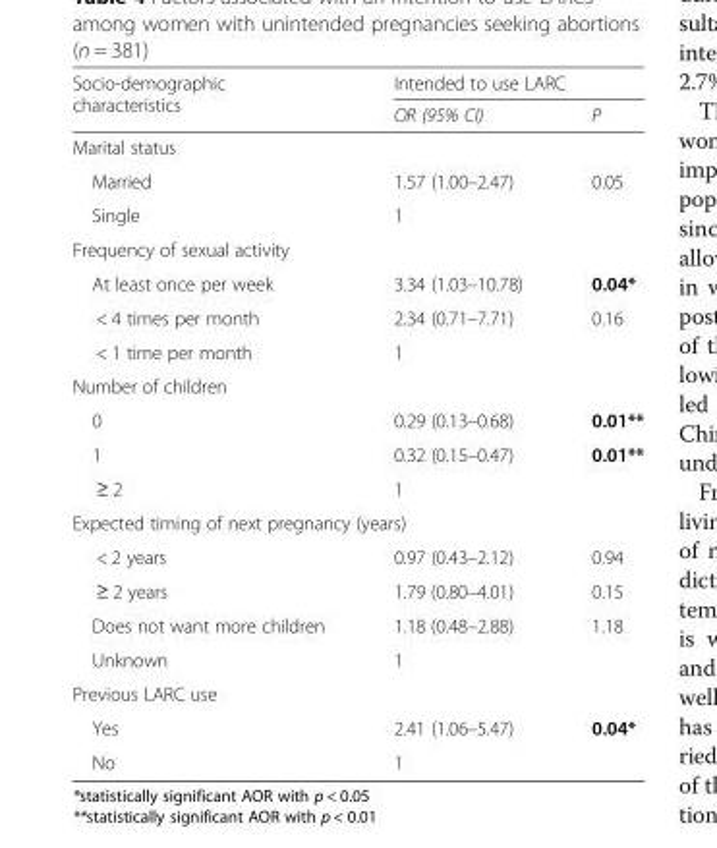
<table><thead><tr><td rowspan="2">Socio-demographic characteristics</td><td colspan="2">Intended to use LARC</td></tr><tr><td>OR (95% CI)</td><td>P</td></tr></thead><tbody><tr><td colspan="3">Marital status</td></tr><tr><td>Married</td><td>1.57 (1.00–2.47)</td><td>0.05</td></tr><tr><td>Single</td><td>1</td><td></td></tr><tr><td colspan="3">Frequency of sexual activity</td></tr><tr><td>At least once per week</td><td>3.34 (1.03–10.78)</td><td>0.04*</td></tr><tr><td>&lt; 4 times per month</td><td>2.34 (0.71–7.71)</td><td>0.16</td></tr><tr><td>&lt; 1 time per month</td><td>1</td><td></td></tr><tr><td colspan="3">Number of children</td></tr><tr><td>0</td><td>0.29 (0.13–0.68)</td><td>0.01**</td></tr><tr><td>1</td><td>0.32 (0.15–0.47)</td><td>0.01**</td></tr><tr><td>≥ 2</td><td>1</td><td></td></tr><tr><td colspan="3">Expected timing of next pregnancy (years)</td></tr><tr><td>&lt; 2 years</td><td>0.97 (0.43–2.12)</td><td>0.94</td></tr><tr><td>≥ 2 years</td><td>1.79 (0.80–4.01)</td><td>0.15</td></tr><tr><td>Does not want more children</td><td>1.18 (0.48–2.88)</td><td>1.18</td></tr><tr><td>Unknown</td><td>1</td><td></td></tr><tr><td colspan="3">Previous LARC use</td></tr><tr><td>Yes</td><td>2.41 (1.06–5.47)</td><td>0.04*</td></tr><tr><td>No</td><td>1</td><td></td></tr></tbody></table>